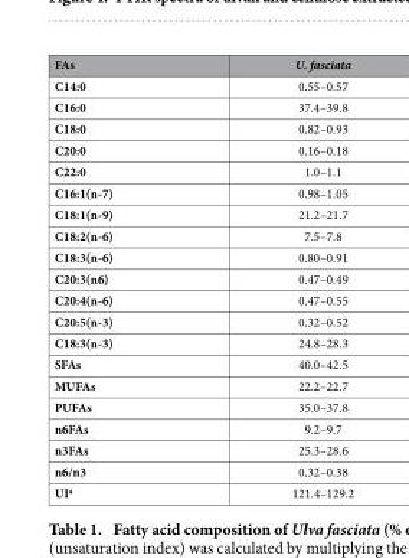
<table><thead><tr><td>FAs</td><td>U. fasciata</td></tr></thead><tbody><tr><td>C14:0</td><td>0.55–0.57</td></tr><tr><td>C16:0</td><td>37.4–39.8</td></tr><tr><td>C18:0</td><td>0.82–0.93</td></tr><tr><td>C20:0</td><td>0.16–0.18</td></tr><tr><td>C22:0</td><td>1.0–1.1</td></tr><tr><td>C16:1(n-7)</td><td>0.98–1.05</td></tr><tr><td>C18:1(n-9)</td><td>21.2–21.7</td></tr><tr><td>C18:2(n-6)</td><td>7.5–7.8</td></tr><tr><td>C18:3(n-6)</td><td>0.80–0.91</td></tr><tr><td>C20:3(n6)</td><td>0.47–0.49</td></tr><tr><td>C20:4(n-6)</td><td>0.47–0.55</td></tr><tr><td>C20:5(n-3)</td><td>0.32–0.52</td></tr><tr><td>C18:3(n-3)</td><td>24.8–28.3</td></tr><tr><td>SFAs</td><td>40.0–42.5</td></tr><tr><td>MUFAs</td><td>22.2–22.7</td></tr><tr><td>PUFAs</td><td>35.0–37.8</td></tr><tr><td>n6FAs</td><td>9.2–9.7</td></tr><tr><td>n3FAs</td><td>25.3–28.6</td></tr><tr><td>n6/n3</td><td>0.32–0.38</td></tr><tr><td>UI<sup>a</sup></td><td>121.4–129.2</td></tr></tbody></table>